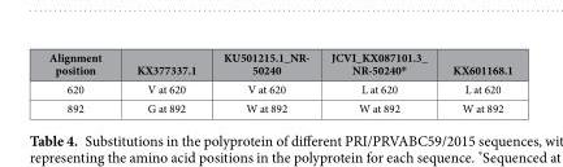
<table><thead><tr><td>Alignment position</td><td>KX377337.1</td><td>KU501215.1_NR- 50240</td><td>JCVI_KX087101.3_ NR-50240*</td><td>KX601168.1</td></tr></thead><tbody><tr><td>620</td><td>V at 620</td><td>V at 620</td><td>L at 620</td><td>L at 620</td></tr><tr><td>892</td><td>G at 892</td><td>W at 892</td><td>W at 892</td><td>W at 892</td></tr></tbody></table>